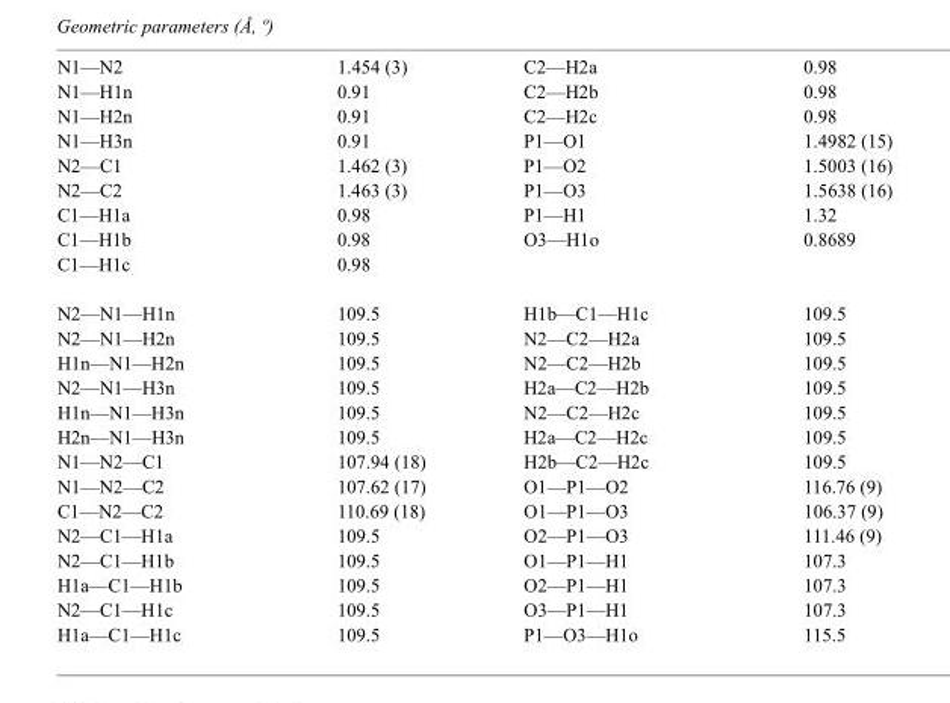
<table><tbody><tr><td>N1—N2</td><td>1.454 (3)</td><td>C2—H2a</td><td>0.98</td></tr><tr><td>N1—H1n</td><td>0.91</td><td>C2—H2b</td><td>0.98</td></tr><tr><td>N1—H2n</td><td>0.91</td><td>C2—H2c</td><td>0.98</td></tr><tr><td>N1—H3n</td><td>0.91</td><td>P1—O1</td><td>1.4982 (15)</td></tr><tr><td>N2—C1</td><td>1.462 (3)</td><td>P1—O2</td><td>1.5003 (16)</td></tr><tr><td>N2—C2</td><td>1.463 (3)</td><td>P1—O3</td><td>1.5638 (16)</td></tr><tr><td>C1—H1a</td><td>0.98</td><td>P1—H1</td><td>1.32</td></tr><tr><td>C1—H1b</td><td>0.98</td><td>O3—H1o</td><td>0.8689</td></tr><tr><td>C1—H1c</td><td>0.98</td><td></td><td></td></tr><tr><td>N2—N1—H1n</td><td>109.5</td><td>H1b—C1—H1c</td><td>109.5</td></tr><tr><td>N2—N1—H2n</td><td>109.5</td><td>N2—C2—H2a</td><td>109.5</td></tr><tr><td>H1n—N1—H2n</td><td>109.5</td><td>N2—C2—H2b</td><td>109.5</td></tr><tr><td>N2—N1—H3n</td><td>109.5</td><td>H2a—C2—H2b</td><td>109.5</td></tr><tr><td>H1n—N1—H3n</td><td>109.5</td><td>N2—C2—H2c</td><td>109.5</td></tr><tr><td>H2n—N1—H3n</td><td>109.5</td><td>H2a—C2—H2c</td><td>109.5</td></tr><tr><td>N1—N2—C1</td><td>107.94 (18)</td><td>H2b—C2—H2c</td><td>109.5</td></tr><tr><td>N1—N2—C2</td><td>107.62 (17)</td><td>O1—P1—O2</td><td>116.76 (9)</td></tr><tr><td>C1—N2—C2</td><td>110.69 (18)</td><td>O1—P1—O3</td><td>106.37 (9)</td></tr><tr><td>N2—C1—H1a</td><td>109.5</td><td>O2—P1—O3</td><td>111.46 (9)</td></tr><tr><td>N2—C1—H1b</td><td>109.5</td><td>O1—P1—H1</td><td>107.3</td></tr><tr><td>H1a—C1—H1b</td><td>109.5</td><td>O2—P1—H1</td><td>107.3</td></tr><tr><td>N2—C1—H1c</td><td>109.5</td><td>O3—P1—H1</td><td>107.3</td></tr><tr><td>H1a—C1—H1c</td><td>109.5</td><td>P1—O3—H1o</td><td>115.5</td></tr></tbody></table>